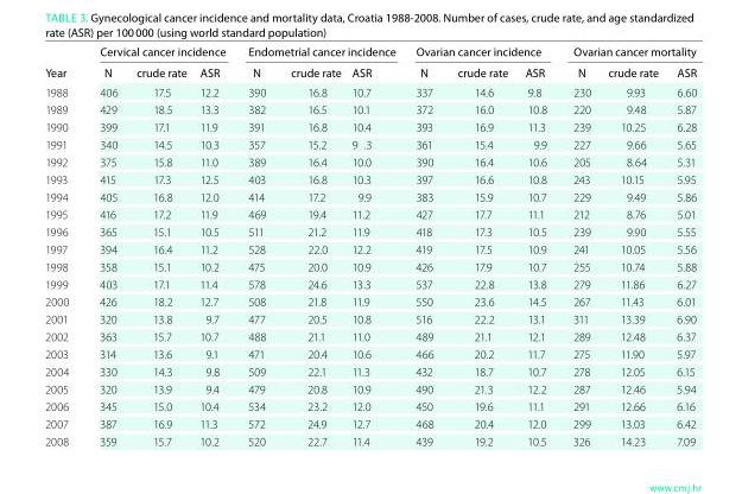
<table><thead><tr><td rowspan="2">Year</td><td colspan="3">Cervical cancer incidence</td><td colspan="3">endometrial cancer incidence</td><td colspan="3">ovarian cancer incidence</td><td colspan="3">ovarian cancer mortality</td></tr><tr><td>n</td><td>crude rate</td><td>Asr</td><td>n</td><td>crude rate</td><td>Asr</td><td>n</td><td>crude rate</td><td>Asr</td><td>n</td><td>crude rate</td><td>Asr</td></tr></thead><tbody><tr><td>1988</td><td>406</td><td>17.5</td><td>12.2</td><td>390</td><td>16.8</td><td>10.7</td><td>337</td><td>14.6</td><td>9.8</td><td>230</td><td>9.93</td><td>6.60</td></tr><tr><td>1989</td><td>429</td><td>18.5</td><td>13.3</td><td>382</td><td>16.5</td><td>10.1</td><td>372</td><td>16.0</td><td>10.8</td><td>220</td><td>9.48</td><td>5.87</td></tr><tr><td>1990</td><td>399</td><td>17.1</td><td>11.9</td><td>391</td><td>16.8</td><td>10.4</td><td>393</td><td>16.9</td><td>11.3</td><td>239</td><td>10.25</td><td>6.28</td></tr><tr><td>1991</td><td>340</td><td>14.5</td><td>10.3</td><td>357</td><td>15.2</td><td>9 .3</td><td>361</td><td>15.4</td><td>9.9</td><td>227</td><td>9.66</td><td>5.65</td></tr><tr><td>1992</td><td>375</td><td>15.8</td><td>11.0</td><td>389</td><td>16.4</td><td>10.0</td><td>390</td><td>16.4</td><td>10.6</td><td>205</td><td>8.64</td><td>5.31</td></tr><tr><td>1993</td><td>415</td><td>17.3</td><td>12.5</td><td>403</td><td>16.8</td><td>10.3</td><td>397</td><td>16.6</td><td>10.8</td><td>243</td><td>10.15</td><td>5.95</td></tr><tr><td>1994</td><td>405</td><td>16.8</td><td>12.0</td><td>414</td><td>17.2</td><td>9.9</td><td>383</td><td>15.9</td><td>10.7</td><td>229</td><td>9.49</td><td>5.86</td></tr><tr><td>1995</td><td>416</td><td>17.2</td><td>11.9</td><td>469</td><td>19.4</td><td>11.2</td><td>427</td><td>17.7</td><td>11.1</td><td>212</td><td>8.76</td><td>5.01</td></tr><tr><td>1996</td><td>365</td><td>15.1</td><td>10.5</td><td>511</td><td>21.2</td><td>11.9</td><td>418</td><td>17.3</td><td>10.5</td><td>239</td><td>9.90</td><td>5.55</td></tr><tr><td>1997</td><td>394</td><td>16.4</td><td>11.2</td><td>528</td><td>22.0</td><td>12.2</td><td>419</td><td>17.5</td><td>10.9</td><td>241</td><td>10.05</td><td>5.56</td></tr><tr><td>1998</td><td>358</td><td>15.1</td><td>10.2</td><td>475</td><td>20.0</td><td>10.9</td><td>426</td><td>17.9</td><td>10.7</td><td>255</td><td>10.74</td><td>5.88</td></tr><tr><td>1999</td><td>403</td><td>17.1</td><td>11.4</td><td>578</td><td>24.6</td><td>13.3</td><td>537</td><td>22.8</td><td>13.8</td><td>279</td><td>11.86</td><td>6.27</td></tr><tr><td>2000</td><td>426</td><td>18.2</td><td>12.7</td><td>508</td><td>21.8</td><td>11.9</td><td>550</td><td>23.6</td><td>14.5</td><td>267</td><td>11.43</td><td>6.01</td></tr><tr><td>2001</td><td>320</td><td>13.8</td><td>9.7</td><td>477</td><td>20.5</td><td>10.8</td><td>516</td><td>22.2</td><td>13.1</td><td>311</td><td>13.39</td><td>6.90</td></tr><tr><td>2002</td><td>363</td><td>15.7</td><td>10.7</td><td>488</td><td>21.1</td><td>11.0</td><td>489</td><td>21.1</td><td>12.1</td><td>289</td><td>12.48</td><td>6.37</td></tr><tr><td>2003</td><td>314</td><td>13.6</td><td>9.1</td><td>471</td><td>20.4</td><td>10.6</td><td>466</td><td>20.2</td><td>11.7</td><td>275</td><td>11.90</td><td>5.97</td></tr><tr><td>2004</td><td>330</td><td>14.3</td><td>9.8</td><td>509</td><td>22.1</td><td>11.3</td><td>432</td><td>18.7</td><td>10.7</td><td>278</td><td>12.05</td><td>6.15</td></tr><tr><td>2005</td><td>320</td><td>13.9</td><td>9.4</td><td>479</td><td>20.8</td><td>10.9</td><td>490</td><td>21.3</td><td>12.2</td><td>287</td><td>12.46</td><td>5.94</td></tr><tr><td>2006</td><td>345</td><td>15.0</td><td>10.4</td><td>534</td><td>23.2</td><td>12.0</td><td>450</td><td>19.6</td><td>11.1</td><td>291</td><td>12.66</td><td>6.16</td></tr><tr><td>2007</td><td>387</td><td>16.9</td><td>11.3</td><td>572</td><td>24.9</td><td>12.7</td><td>468</td><td>20.4</td><td>12.0</td><td>299</td><td>13.03</td><td>6.42</td></tr><tr><td>2008</td><td>359</td><td>15.7</td><td>10.2</td><td>520</td><td>22.7</td><td>11.4</td><td>439</td><td>19.2</td><td>10.5</td><td>326</td><td>14.23</td><td>7.09</td></tr></tbody></table>